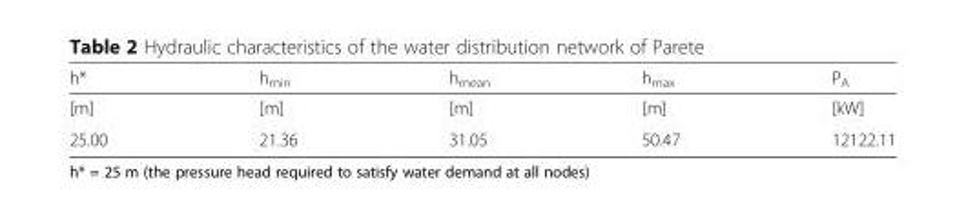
<table><thead><tr><td>h*</td><td>h<sub>min</sub></td><td>h<sub>mean</sub></td><td>h<sub>max</sub></td><td>P<sub>A</sub></td></tr></thead><tbody><tr><td>[m]</td><td>[m]</td><td>[m]</td><td>[m]</td><td>[kW]</td></tr><tr><td>25.00</td><td>21.36</td><td>31.05</td><td>50.47</td><td>12122.11</td></tr></tbody></table>